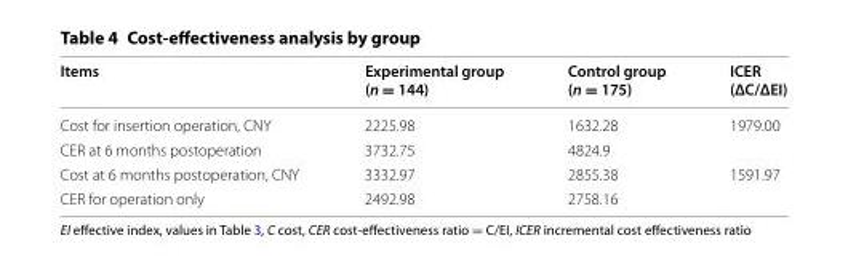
<table><thead><tr><td>Items</td><td>Experimental group (n = 144)</td><td>Control group (n = 175)</td><td>ICER (ΔC/ΔEI)</td></tr></thead><tbody><tr><td>Cost for insertion operation, CNY</td><td>2225.98</td><td>1632.28</td><td>1979.00</td></tr><tr><td>CER at 6 months postoperation</td><td>3732.75</td><td>4824.9</td><td></td></tr><tr><td>Cost at 6 months postoperation, CNY</td><td>3332.97</td><td>2855.38</td><td>1591.97</td></tr><tr><td>CER for operation only</td><td>2492.98</td><td>2758.16</td><td></td></tr></tbody></table>